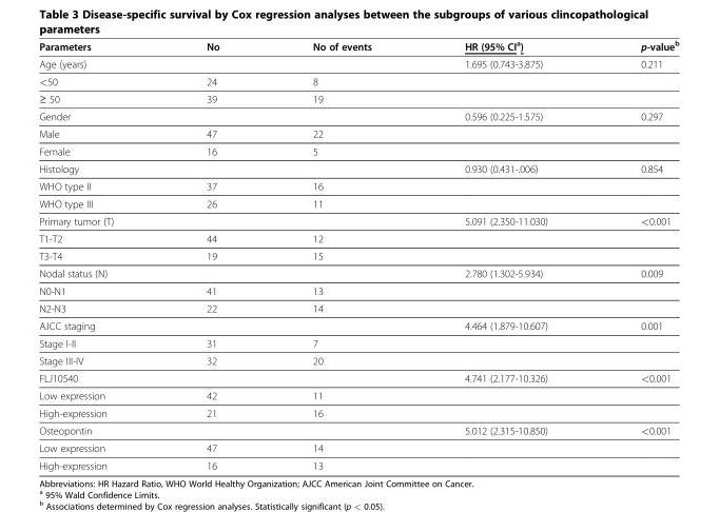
<table><thead><tr><td>Parameters</td><td>No</td><td>No of events</td><td>HR (95% CI<sup>a</sup>)</td><td>p-value<sup>b</sup></td></tr></thead><tbody><tr><td>Age (years)</td><td></td><td></td><td>1.695 (0.743-3.875)</td><td>0.211</td></tr><tr><td>&lt;50</td><td>24</td><td>8</td><td></td><td></td></tr><tr><td>≥ 50</td><td>39</td><td>19</td><td></td><td></td></tr><tr><td>Gender</td><td></td><td></td><td>0.596 (0.225-1.575)</td><td>0.297</td></tr><tr><td>Male</td><td>47</td><td>22</td><td></td><td></td></tr><tr><td>Female</td><td>16</td><td>5</td><td></td><td></td></tr><tr><td>Histology</td><td></td><td></td><td>0.930 (0.431-.006)</td><td>0.854</td></tr><tr><td>WHO type II</td><td>37</td><td>16</td><td></td><td></td></tr><tr><td>WHO type III</td><td>26</td><td>11</td><td></td><td></td></tr><tr><td>Primary tumor (T)</td><td></td><td></td><td>5.091 (2.350-11.030)</td><td>&lt;0.001</td></tr><tr><td>T1-T2</td><td>44</td><td>12</td><td></td><td></td></tr><tr><td>T3-T4</td><td>19</td><td>15</td><td></td><td></td></tr><tr><td>Nodal status (N)</td><td></td><td></td><td>2.780 (1.302-5.934)</td><td>0.009</td></tr><tr><td>N0-N1</td><td>41</td><td>13</td><td></td><td></td></tr><tr><td>N2-N3</td><td>22</td><td>14</td><td></td><td></td></tr><tr><td>AJCC staging</td><td></td><td></td><td>4.464 (1.879-10.607)</td><td>0.001</td></tr><tr><td>Stage I-II</td><td>31</td><td>7</td><td></td><td></td></tr><tr><td>Stage III-IV</td><td>32</td><td>20</td><td></td><td></td></tr><tr><td>FLJ10540</td><td></td><td></td><td>4.741 (2.177-10.326)</td><td>&lt;0.001</td></tr><tr><td>Low expression</td><td>42</td><td>11</td><td></td><td></td></tr><tr><td>High-expression</td><td>21</td><td>16</td><td></td><td></td></tr><tr><td>Osteopontin</td><td></td><td></td><td>5.012 (2.315-10.850)</td><td>&lt;0.001</td></tr><tr><td>Low expression</td><td>47</td><td>14</td><td></td><td></td></tr><tr><td>High-expression</td><td>16</td><td>13</td><td></td><td></td></tr></tbody></table>